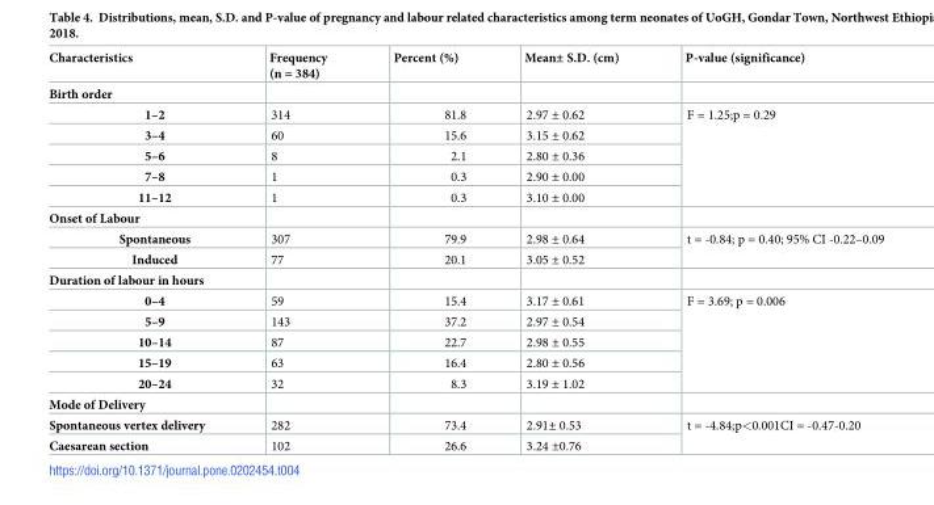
<table><thead><tr><td>Characteristics</td><td>Frequency (n = 384)</td><td>Percent (%)</td><td>Mean± S.D. (cm)</td><td>P-value (significance)</td></tr></thead><tbody><tr><td colspan="5">Birth order</td></tr><tr><td>1–2</td><td>314</td><td>81.8</td><td>2.97 ± 0.62</td><td rowspan="5">F = 1.25;p = 0.29</td></tr><tr><td>3–4</td><td>60</td><td>15.6</td><td>3.15 ± 0.62</td></tr><tr><td>5–6</td><td>8</td><td>2.1</td><td>2.80 ± 0.36</td></tr><tr><td>7–8</td><td>1</td><td>0.3</td><td>2.90 ± 0.00</td></tr><tr><td>11–12</td><td>1</td><td>0.3</td><td>3.10 ± 0.00</td></tr><tr><td colspan="5">Onset of Labour</td></tr><tr><td>Spontaneous</td><td>307</td><td>79.9</td><td>2.98 ± 0.64</td><td rowspan="2">t = -0.84; p = 0.40; 95% CI -0.22–0.09</td></tr><tr><td>Induced</td><td>77</td><td>20.1</td><td>3.05 ± 0.52</td></tr><tr><td colspan="5">Duration of labour in hours</td></tr><tr><td>0–4</td><td>59</td><td>15.4</td><td>3.17 ± 0.61</td><td rowspan="5">F = 3.69; p = 0.006</td></tr><tr><td>5–9</td><td>143</td><td>37.2</td><td>2.97 ± 0.54</td></tr><tr><td>10–14</td><td>87</td><td>22.7</td><td>2.98 ± 0.55</td></tr><tr><td>15–19</td><td>63</td><td>16.4</td><td>2.80 ± 0.56</td></tr><tr><td>20–24</td><td>32</td><td>8.3</td><td>3.19 ± 1.02</td></tr><tr><td colspan="5">Mode of Delivery</td></tr><tr><td>Spontaneous vertex delivery</td><td>282</td><td>73.4</td><td>2.91± 0.53</td><td rowspan="2">t = -4.84;p&lt;0.001CI = -0.47-0.20</td></tr><tr><td>Caesarean section</td><td>102</td><td>26.6</td><td>3.24 ±0.76</td></tr></tbody></table>